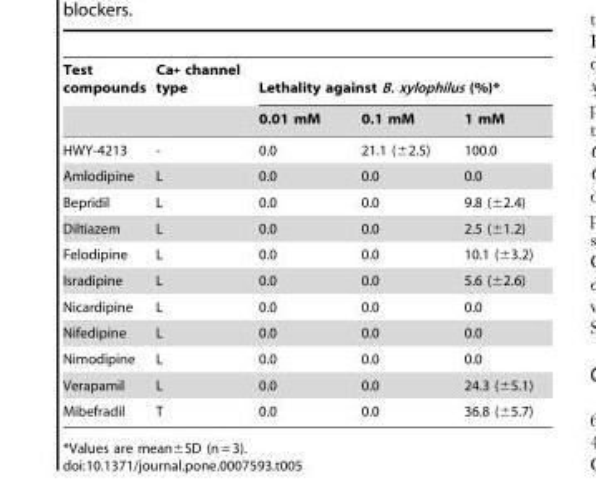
<table><thead><tr><td rowspan="2">Test compounds</td><td rowspan="2">Ca<sup>+</sup> channel type</td><td colspan="3">Lethality against B. xylophilus (%)*</td></tr><tr><td>0.01 mM</td><td>0.1 mM</td><td>1 mM</td></tr></thead><tbody><tr><td>HWY-4213</td><td>-</td><td>0.0</td><td>21.1 (±2.5)</td><td>100.0</td></tr><tr><td>Amlodipine</td><td>L</td><td>0.0</td><td>0.0</td><td>0.0</td></tr><tr><td>Bepridil</td><td>L</td><td>0.0</td><td>0.0</td><td>9.8 (±2.4)</td></tr><tr><td>Diltiazem</td><td>L</td><td>0.0</td><td>0.0</td><td>2.5 (±1.2)</td></tr><tr><td>Felodipine</td><td>L</td><td>0.0</td><td>0.0</td><td>10.1 (±3.2)</td></tr><tr><td>Isradipine</td><td>L</td><td>0.0</td><td>0.0</td><td>5.6 (±2.6)</td></tr><tr><td>Nicardipine</td><td>L</td><td>0.0</td><td>0.0</td><td>0.0</td></tr><tr><td>Nifedipine</td><td>L</td><td>0.0</td><td>0.0</td><td>0.0</td></tr><tr><td>Nimodipine</td><td>L</td><td>0.0</td><td>0.0</td><td>0.0</td></tr><tr><td>Verapamil</td><td>L</td><td>0.0</td><td>0.0</td><td>24.3 (±5.1)</td></tr><tr><td>Mibefradil</td><td>T</td><td>0.0</td><td>0.0</td><td>36.8 (±5.7)</td></tr></tbody></table>